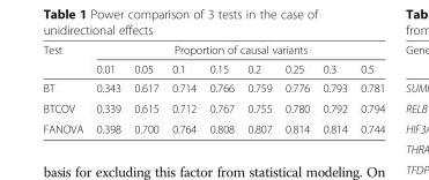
<table><thead><tr><td rowspan="2">Test</td><td colspan="8">Proportion of causal variants</td></tr><tr><td>0.01</td><td>0.05</td><td>0.1</td><td>0.15</td><td>0.2</td><td>0.25</td><td>0.3</td><td>0.5</td></tr></thead><tbody><tr><td>BT</td><td>0.343</td><td>0.617</td><td>0.714</td><td>0.766</td><td>0.759</td><td>0.776</td><td>0.793</td><td>0.781</td></tr><tr><td>BTCOV</td><td>0.339</td><td>0.615</td><td>0.712</td><td>0.767</td><td>0.755</td><td>0.780</td><td>0.792</td><td>0.794</td></tr><tr><td>FANOVA</td><td>0.398</td><td>0.700</td><td>0.764</td><td>0.808</td><td>0.807</td><td>0.814</td><td>0.814</td><td>0.744</td></tr></tbody></table>